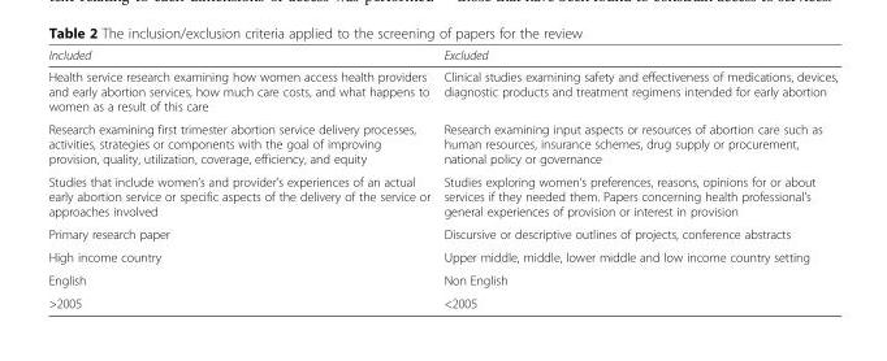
<table><thead><tr><td>Included</td><td>Excluded</td></tr></thead><tbody><tr><td>Health service research examining how women access health providers and early abortion services, how much care costs, and what happens to women as a result of this care</td><td>Clinical studies examining safety and effectiveness of medications, devices, diagnostic products and treatment regimens intended for early abortion</td></tr><tr><td>Research examining first trimester abortion service delivery processes, activities, strategies or components with the goal of improving provision, quality, utilization, coverage, efficiency, and equity</td><td>Research examining input aspects or resources of abortion care such as human resources, insurance schemes, drug supply or procurement, national policy or governance</td></tr><tr><td>Studies that include women’s and provider’s experiences of an actual early abortion service or specific aspects of the delivery of the service or approaches involved</td><td>Studies exploring women’s preferences, reasons, opinions for or about services if they needed them. Papers concerning health professional’s general experiences of provision or interest in provision</td></tr><tr><td>Primary research paper</td><td>Discursive or descriptive outlines of projects, conference abstracts</td></tr><tr><td>High income country</td><td>Upper middle, middle, lower middle and low income country setting</td></tr><tr><td>English</td><td>Non English</td></tr><tr><td>&gt;2005</td><td>&lt;2005</td></tr></tbody></table>